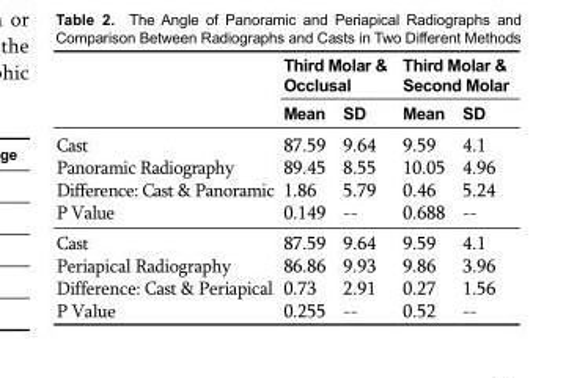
<table><thead><tr><td rowspan="2"></td><td colspan="2">Third Molar &amp; Occlusal</td><td colspan="2">Third Molar &amp; Second Molar</td></tr><tr><td>Mean</td><td>SD</td><td>Mean</td><td>SD</td></tr></thead><tbody><tr><td>Cast</td><td>87.59</td><td>9.64</td><td>9.59</td><td>4.1</td></tr><tr><td>Panoramic Radiography</td><td>89.45</td><td>8.55</td><td>10.05</td><td>4.96</td></tr><tr><td>Difference: Cast &amp; Panoramic</td><td>1.86</td><td>5.79</td><td>0.46</td><td>5.24</td></tr><tr><td>P Value</td><td>0.149</td><td>--</td><td>0.688</td><td>--</td></tr><tr><td>Cast</td><td>87.59</td><td>9.64</td><td>9.59</td><td>4.1</td></tr><tr><td>Periapical Radiography</td><td>86.86</td><td>9.93</td><td>9.86</td><td>3.96</td></tr><tr><td>Difference: Cast &amp; Periapical</td><td>0.73</td><td>2.91</td><td>0.27</td><td>1.56</td></tr><tr><td>P Value</td><td>0.255</td><td>--</td><td>0.52</td><td>--</td></tr></tbody></table>